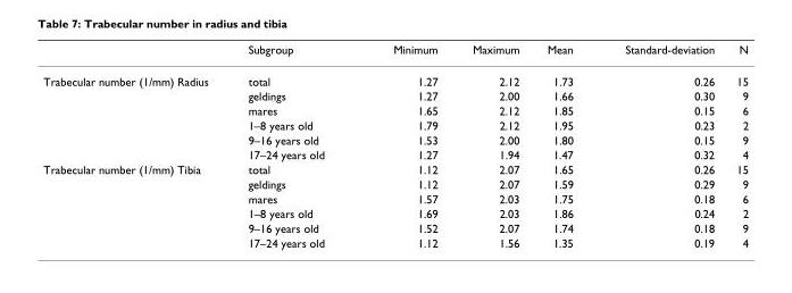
<table><thead><tr><td></td><td>Subgroup</td><td>Minimum</td><td>Maximum</td><td>Mean</td><td>Standard-deviation</td><td>N</td></tr></thead><tbody><tr><td rowspan="6">Trabecular number (1/mm) Radius</td><td>total</td><td>1.27</td><td>2.12</td><td>1.73</td><td>0.26</td><td>15</td></tr><tr><td>geldings</td><td>1.27</td><td>2.00</td><td>1.66</td><td>0.30</td><td>9</td></tr><tr><td>mares</td><td>1.65</td><td>2.12</td><td>1.85</td><td>0.15</td><td>6</td></tr><tr><td>1–8 years old</td><td>1.79</td><td>2.12</td><td>1.95</td><td>0.23</td><td>2</td></tr><tr><td>9–16 years old</td><td>1.53</td><td>2.00</td><td>1.80</td><td>0.15</td><td>9</td></tr><tr><td>17–24 years old</td><td>1.27</td><td>1.94</td><td>1.47</td><td>0.32</td><td>4</td></tr><tr><td rowspan="6">Trabecular number (1/mm) Tibia</td><td>total</td><td>1.12</td><td>2.07</td><td>1.65</td><td>0.26</td><td>15</td></tr><tr><td>geldings</td><td>1.12</td><td>2.07</td><td>1.59</td><td>0.29</td><td>9</td></tr><tr><td>mares</td><td>1.57</td><td>2.03</td><td>1.75</td><td>0.18</td><td>6</td></tr><tr><td>1–8 years old</td><td>1.69</td><td>2.03</td><td>1.86</td><td>0.24</td><td>2</td></tr><tr><td>9–16 years old</td><td>1.52</td><td>2.07</td><td>1.74</td><td>0.18</td><td>9</td></tr><tr><td>17–24 years old</td><td>1.12</td><td>1.56</td><td>1.35</td><td>0.19</td><td>4</td></tr></tbody></table>